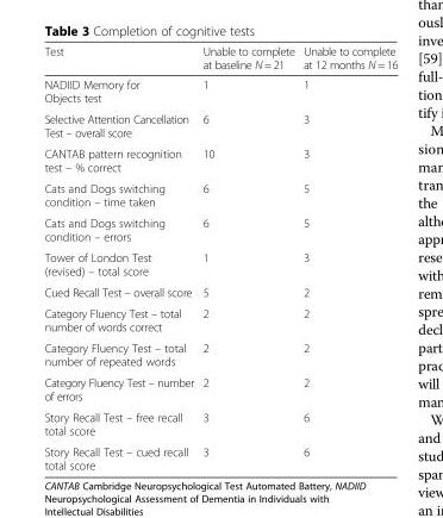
<table><thead><tr><td>Test</td><td>Unable to complete at baseline N = 21</td><td>Unable to complete at 12 months N = 16</td></tr></thead><tbody><tr><td>NADIID Memory for Objects test</td><td>1</td><td>1</td></tr><tr><td>Selective Attention Cancellation Test – overall score</td><td>6</td><td>3</td></tr><tr><td>CANTAB pattern recognition test – % correct</td><td>10</td><td>3</td></tr><tr><td>Cats and Dogs switching condition – time taken</td><td>6</td><td>5</td></tr><tr><td>Cats and Dogs switching condition – errors</td><td>6</td><td>5</td></tr><tr><td>Tower of London Test (revised) – total score</td><td>1</td><td>3</td></tr><tr><td>Cued Recall Test – overall score</td><td>5</td><td>2</td></tr><tr><td>Category Fluency Test – total number of words correct</td><td>2</td><td>2</td></tr><tr><td>Category Fluency Test – total number of repeated words</td><td>2</td><td>2</td></tr><tr><td>Category Fluency Test – number of errors</td><td>2</td><td>2</td></tr><tr><td>Story Recall Test – free recall total score</td><td>3</td><td>6</td></tr><tr><td>Story Recall Test – cued recall total score</td><td>3</td><td>6</td></tr></tbody></table>